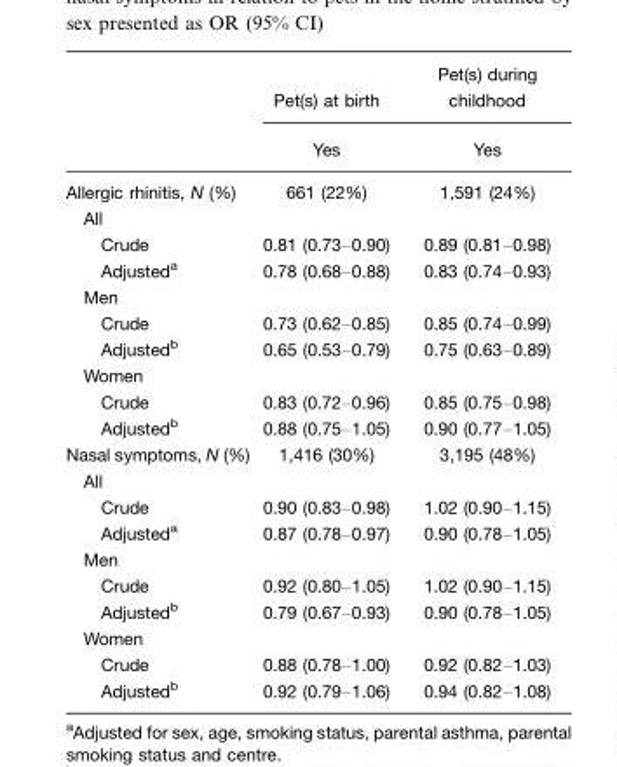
<table><thead><tr><td rowspan="2"></td><td rowspan="2">Pet(s) at birth Yes</td><td rowspan="2">Pet(s) during childhood Yes</td></tr><tr></tr></thead><tbody><tr><td>Allergic rhinitis, N (%)</td><td>661 (22%)</td><td>1,591 (24%)</td></tr><tr><td colspan="3">All</td></tr><tr><td>Crude</td><td>0.81 (0.73–0.90)</td><td>0.89 (0.81–0.98)</td></tr><tr><td>Adjusted<sup>a</sup></td><td>0.78 (0.68–0.88)</td><td>0.83 (0.74–0.93)</td></tr><tr><td colspan="3">Men</td></tr><tr><td>Crude</td><td>0.73 (0.62–0.85)</td><td>0.85 (0.74–0.99)</td></tr><tr><td>Adjusted<sup>b</sup></td><td>0.65 (0.53–0.79)</td><td>0.75 (0.63–0.89)</td></tr><tr><td colspan="3">Women</td></tr><tr><td>Crude</td><td>0.83 (0.72–0.96)</td><td>0.85 (0.75–0.98)</td></tr><tr><td>Adjusted<sup>b</sup></td><td>0.88 (0.75–1.05)</td><td>0.90 (0.77–1.05)</td></tr><tr><td>Nasal symptoms, N (%)</td><td>1,416 (30%)</td><td>3,195 (48%)</td></tr><tr><td colspan="3">All</td></tr><tr><td>Crude</td><td>0.90 (0.83–0.98)</td><td>1.02 (0.90–1.15)</td></tr><tr><td>Adjusted<sup>a</sup></td><td>0.87 (0.78–0.97)</td><td>0.90 (0.78–1.05)</td></tr><tr><td colspan="3">Men</td></tr><tr><td>Crude</td><td>0.92 (0.80–1.05)</td><td>1.02 (0.90–1.15)</td></tr><tr><td>Adjusted<sup>b</sup></td><td>0.79 (0.67–0.93)</td><td>0.90 (0.78–1.05)</td></tr><tr><td colspan="3">Women</td></tr><tr><td>Crude</td><td>0.88 (0.78–1.00)</td><td>0.92 (0.82–1.03)</td></tr><tr><td>Adjusted<sup>b</sup></td><td>0.92 (0.79–1.06)</td><td>0.94 (0.82–1.08)</td></tr></tbody></table>